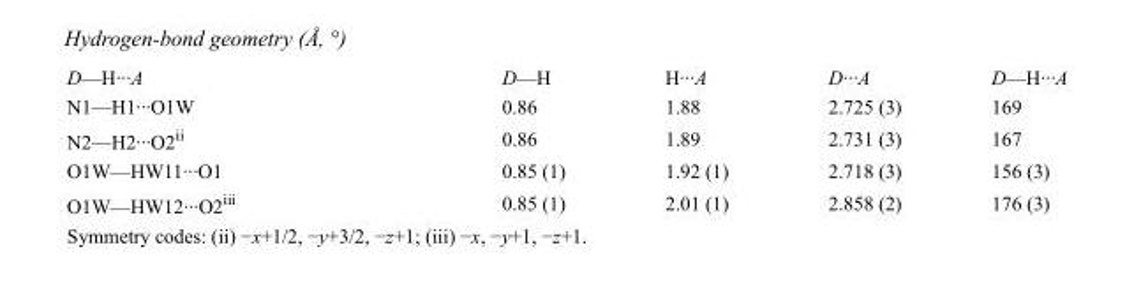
<table><tbody><tr><td>D—H···A</td><td>D—H</td><td>H···A</td><td>D···A</td><td>D—H···A</td></tr><tr><td>N1—H1···O1W</td><td>0.86</td><td>1.88</td><td>2.725 (3)</td><td>169</td></tr><tr><td>N2—H2···O2<sup>ii</sup></td><td>0.86</td><td>1.89</td><td>2.731 (3)</td><td>167</td></tr><tr><td>O1W—HW11···O1</td><td>0.85 (1)</td><td>1.92 (1)</td><td>2.718 (3)</td><td>156 (3)</td></tr><tr><td>O1W—HW12···O2<sup>iii</sup></td><td>0.85 (1)</td><td>2.01 (1)</td><td>2.858 (2)</td><td>176 (3)</td></tr></tbody></table>